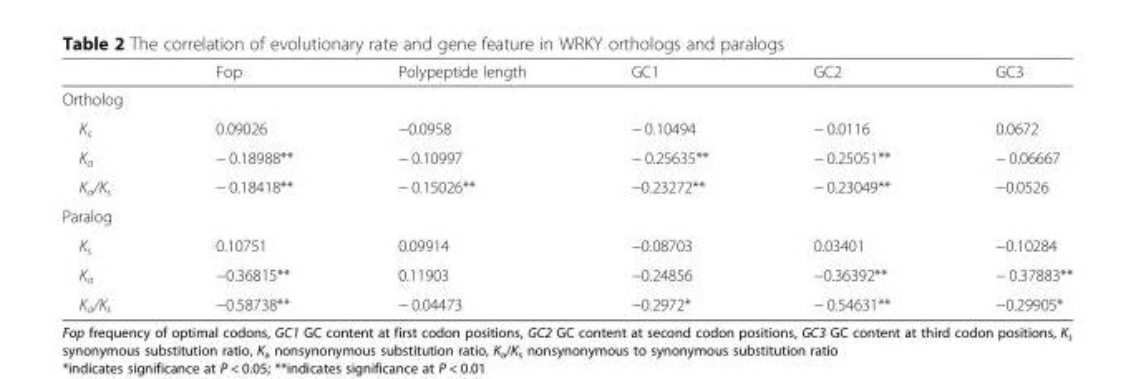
<table><thead><tr><td></td><td>Fop</td><td>Polypeptide length</td><td>GC1</td><td>GC2</td><td>GC3</td></tr></thead><tbody><tr><td colspan="6">Ortholog</td></tr><tr><td>K<sub>s</sub></td><td>0.09026</td><td>−0.0958</td><td>− 0.10494</td><td>− 0.0116</td><td>0.0672</td></tr><tr><td>K<sub>a</sub></td><td>− 0.18988**</td><td>− 0.10997</td><td>− 0.25635**</td><td>− 0.25051**</td><td>− 0.06667</td></tr><tr><td>K<sub>a</sub>/K<sub>s</sub></td><td>− 0.18418**</td><td>− 0.15026**</td><td>−0.23272**</td><td>− 0.23049**</td><td>−0.0526</td></tr><tr><td colspan="6">Paralog</td></tr><tr><td>K<sub>s</sub></td><td>0.10751</td><td>0.09914</td><td>−0.08703</td><td>0.03401</td><td>−0.10284</td></tr><tr><td>K<sub>a</sub></td><td>−0.36815**</td><td>0.11903</td><td>−0.24856</td><td>−0.36392**</td><td>− 0.37883**</td></tr><tr><td>K<sub>a</sub>/K<sub>s</sub></td><td>−0.58738**</td><td>− 0.04473</td><td>−0.2972*</td><td>− 0.54631**</td><td>−0.29905*</td></tr></tbody></table>